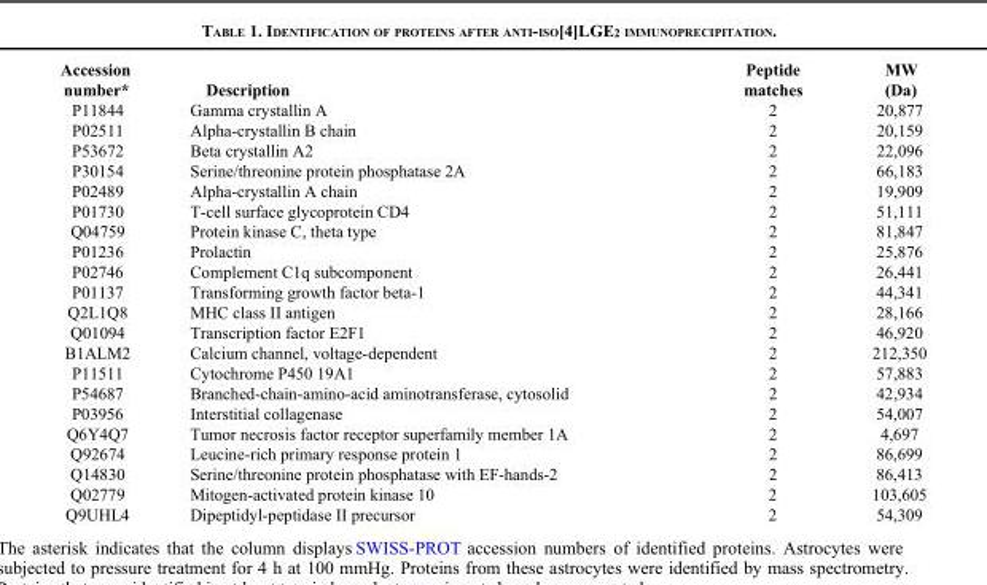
<table><thead><tr><td>Accession number*</td><td>Description</td><td>Peptide matches</td><td>MW (Da)</td></tr></thead><tbody><tr><td>P11844</td><td>Gamma crystallin A</td><td>2</td><td>20,877</td></tr><tr><td>P02511</td><td>Alpha-crystallin B chain</td><td>2</td><td>20,159</td></tr><tr><td>P53672</td><td>Beta crystallin A2</td><td>2</td><td>22,096</td></tr><tr><td>P30154</td><td>Serine/threonine protein phosphatase 2A</td><td>2</td><td>66,183</td></tr><tr><td>P02489</td><td>Alpha-crystallin A chain</td><td>2</td><td>19,909</td></tr><tr><td>P01730</td><td>T-cell surface glycoprotein CD4</td><td>2</td><td>51,111</td></tr><tr><td>Q04759</td><td>Protein kinase C, theta type</td><td>2</td><td>81,847</td></tr><tr><td>P01236</td><td>Prolactin</td><td>2</td><td>25,876</td></tr><tr><td>P02746</td><td>Complement C1q subcomponent</td><td>2</td><td>26,441</td></tr><tr><td>P01137</td><td>Transforming growth factor beta-1</td><td>2</td><td>44,341</td></tr><tr><td>Q2L1Q8</td><td>MHC class II antigen</td><td>2</td><td>28,166</td></tr><tr><td>Q01094</td><td>Transcription factor E2F1</td><td>2</td><td>46,920</td></tr><tr><td>B1ALM2</td><td>Calcium channel, voltage-dependent</td><td>2</td><td>212,350</td></tr><tr><td>P11511</td><td>Cytochrome P450 19A1</td><td>2</td><td>57,883</td></tr><tr><td>P54687</td><td>Branched-chain-amino-acid aminotransferase, cytosolid</td><td>2</td><td>42,934</td></tr><tr><td>P03956</td><td>Interstitial collagenase</td><td>2</td><td>54,007</td></tr><tr><td>Q6Y4Q7</td><td>Tumor necrosis factor receptor superfamily member 1A</td><td>2</td><td>4,697</td></tr><tr><td>Q92674</td><td>Leucine-rich primary response protein 1</td><td>2</td><td>86,699</td></tr><tr><td>Q14830</td><td>Serine/threonine protein phosphatase with EF-hands-2</td><td>2</td><td>86,413</td></tr><tr><td>Q02779</td><td>Mitogen-activated protein kinase 10</td><td>2</td><td>103,605</td></tr><tr><td>Q9UHL4</td><td>Dipeptidyl-peptidase II precursor</td><td>2</td><td>54,309</td></tr></tbody></table>